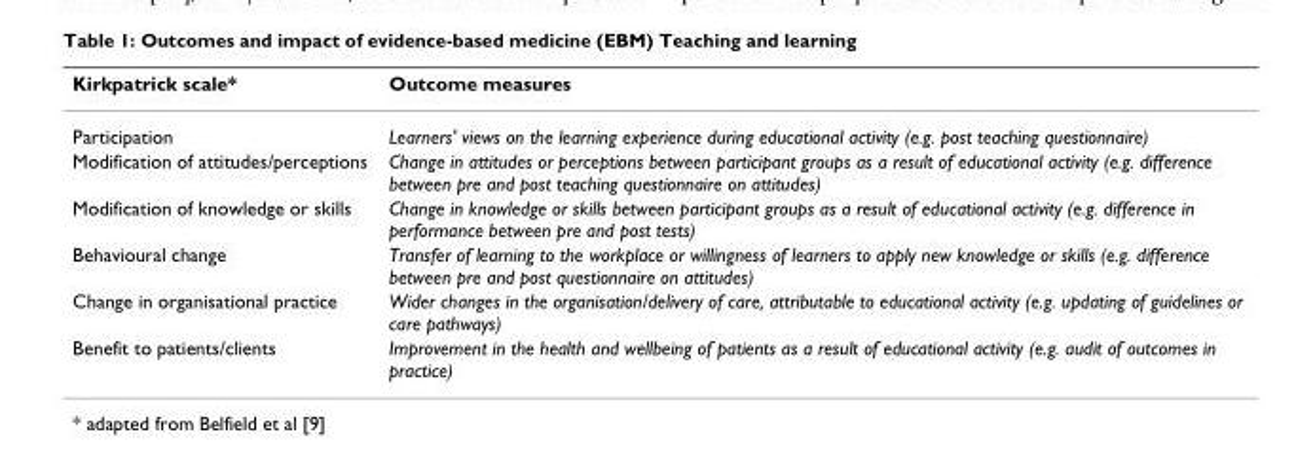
<table><thead><tr><td>Kirkpatrick scale*</td><td>Outcome measures</td></tr></thead><tbody><tr><td>Participation</td><td>Learners&#x27; views on the learning experience during educational activity (e.g. post teaching questionnaire)</td></tr><tr><td>Modification of attitudes/perceptions</td><td>Change in attitudes or perceptions between participant groups as a result of educational activity (e.g. difference between pre and post teaching questionnaire on attitudes)</td></tr><tr><td>Modification of knowledge or skills</td><td>Change in knowledge or skills between participant groups as a result of educational activity (e.g. difference in performance between pre and post tests)</td></tr><tr><td>Behavioural change</td><td>Transfer of learning to the workplace or willingness of learners to apply new knowledge or skills (e.g. difference between pre and post questionnaire on attitudes)</td></tr><tr><td>Change in organisational practice</td><td>Wider changes in the organisation/delivery of care, attributable to educational activity (e.g. updating of guidelines or care pathways)</td></tr><tr><td>Benefit to patients/clients</td><td>Improvement in the health and wellbeing of patients as a result of educational activity (e.g. audit of outcomes in practice)</td></tr></tbody></table>